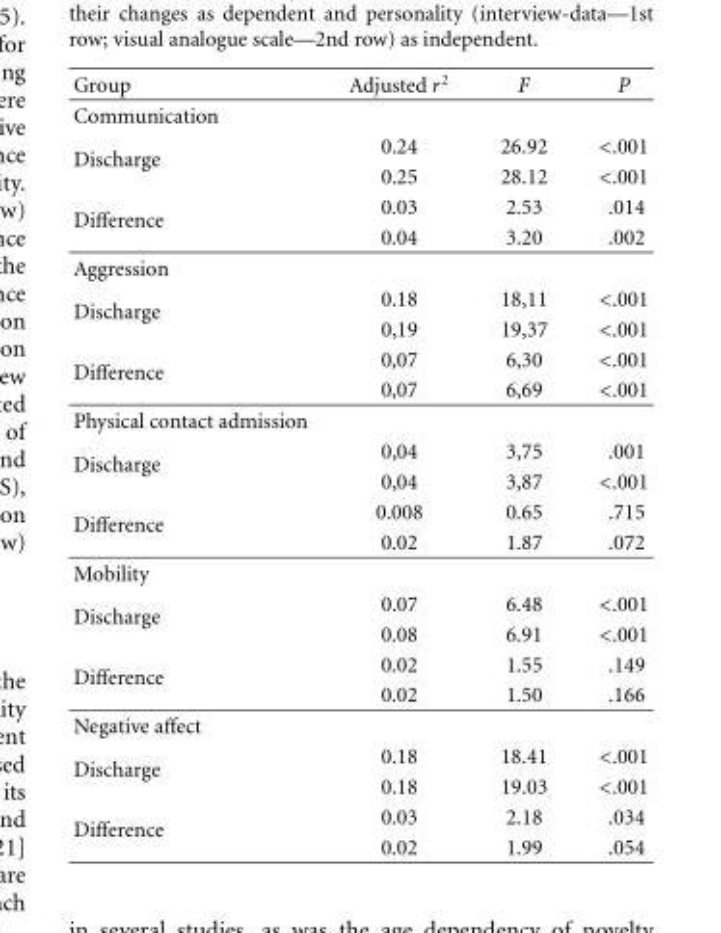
<table><thead><tr><td>Group</td><td>Adjusted r<sup>2</sup></td><td>F</td><td>P</td></tr></thead><tbody><tr><td colspan="4">Communication</td></tr><tr><td rowspan="2">Discharge</td><td>0.24</td><td>26.92</td><td>&lt;.001</td></tr><tr><td>0.25</td><td>28.12</td><td>&lt;.001</td></tr><tr><td rowspan="2">Difference</td><td>0.03</td><td>2.53</td><td>.014</td></tr><tr><td>0.04</td><td>3.20</td><td>.002</td></tr><tr><td colspan="4">Aggression</td></tr><tr><td rowspan="2">Discharge</td><td>0.18</td><td>18,11</td><td>&lt;.001</td></tr><tr><td>0,19</td><td>19,37</td><td>&lt;.001</td></tr><tr><td rowspan="2">Difference</td><td>0,07</td><td>6,30</td><td>&lt;.001</td></tr><tr><td>0,07</td><td>6,69</td><td>&lt;.001</td></tr><tr><td colspan="4">Physical contact admission</td></tr><tr><td rowspan="2">Discharge</td><td>0,04</td><td>3,75</td><td>.001</td></tr><tr><td>0,04</td><td>3,87</td><td>&lt;.001</td></tr><tr><td rowspan="2">Difference</td><td>0.008</td><td>0.65</td><td>.715</td></tr><tr><td>0.02</td><td>1.87</td><td>.072</td></tr><tr><td colspan="4">Mobility</td></tr><tr><td rowspan="2">Discharge</td><td>0.07</td><td>6.48</td><td>&lt;.001</td></tr><tr><td>0.08</td><td>6.91</td><td>&lt;.001</td></tr><tr><td rowspan="2">Difference</td><td>0.02</td><td>1.55</td><td>.149</td></tr><tr><td>0.02</td><td>1.50</td><td>.166</td></tr><tr><td colspan="4">Negative affect</td></tr><tr><td rowspan="2">Discharge</td><td>0.18</td><td>18.41</td><td>&lt;.001</td></tr><tr><td>0.18</td><td>19.03</td><td>&lt;.001</td></tr><tr><td rowspan="2">Difference</td><td>0.03</td><td>2.18</td><td>.034</td></tr><tr><td>0.02</td><td>1.99</td><td>.054</td></tr></tbody></table>